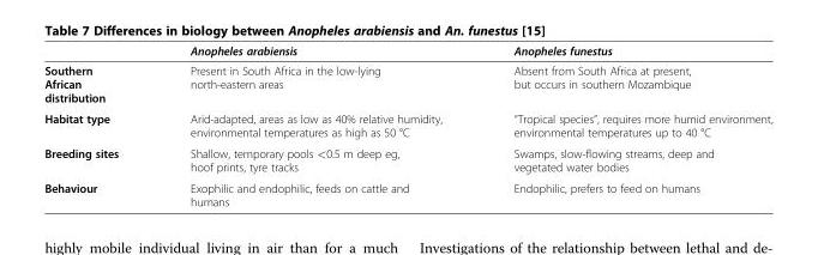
<table><thead><tr><td></td><td>Anopheles arabiensis</td><td>Anopheles funestus</td></tr></thead><tbody><tr><td>Southern African distribution</td><td>Present in South Africa in the low-lying north-eastern areas</td><td>Absent from South Africa at present, but occurs in southern Mozambique</td></tr><tr><td>Habitat type</td><td>Arid-adapted, areas as low as 40% relative humidity, environmental temperatures as high as 50 °C</td><td>“Tropical species”, requires more humid environment, environmental temperatures up to 40 °C</td></tr><tr><td>Breeding sites</td><td>Shallow, temporary pools &lt;0.5 m deep eg, hoof prints, tyre tracks</td><td>Swamps, slow-flowing streams, deep and vegetated water bodies</td></tr><tr><td>Behaviour</td><td>Exophilic and endophilic, feeds on cattle and humans</td><td>Endophilic, prefers to feed on humans</td></tr></tbody></table>